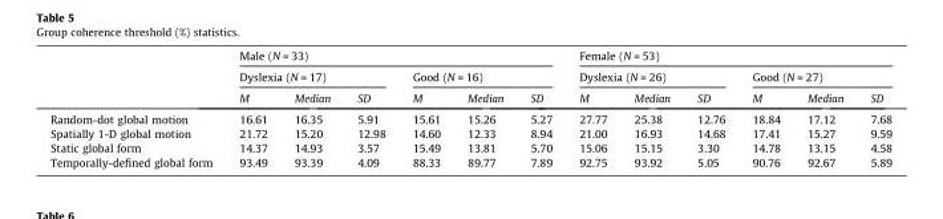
<table><thead><tr><td rowspan="3"></td><td colspan="6">Male (N = 33)</td><td colspan="6">Female (N = 53)</td></tr><tr><td colspan="3">Dyslexia (N = 17)</td><td colspan="3">Good (N = 16)</td><td colspan="3">Dyslexia (N = 26)</td><td colspan="3">Good (N = 27)</td></tr><tr><td>M</td><td>Median</td><td>SD</td><td>M</td><td>Median</td><td>SD</td><td>M</td><td>Median</td><td>SD</td><td>M</td><td>Median</td><td>SD</td></tr></thead><tbody><tr><td>Random-dot global motion</td><td>16.61</td><td>16.35</td><td>5.91</td><td>15.61</td><td>15.26</td><td>5.27</td><td>27.77</td><td>25.38</td><td>12.76</td><td>18.84</td><td>17.12</td><td>7.68</td></tr><tr><td>Spatially 1-D global motion</td><td>21.72</td><td>15.20</td><td>12.98</td><td>14.60</td><td>12.33</td><td>8.94</td><td>21.00</td><td>16.93</td><td>14.68</td><td>17.41</td><td>15.27</td><td>9.59</td></tr><tr><td>Static global form</td><td>14.37</td><td>14.93</td><td>3.57</td><td>15.49</td><td>13.81</td><td>5.70</td><td>15.06</td><td>15.15</td><td>3.30</td><td>14.78</td><td>13.15</td><td>4.58</td></tr><tr><td>Temporally-defined global form</td><td>93.49</td><td>93.39</td><td>4.09</td><td>88.33</td><td>89.77</td><td>7.89</td><td>92.75</td><td>93.92</td><td>5.05</td><td>90.76</td><td>92.67</td><td>5.89</td></tr></tbody></table>